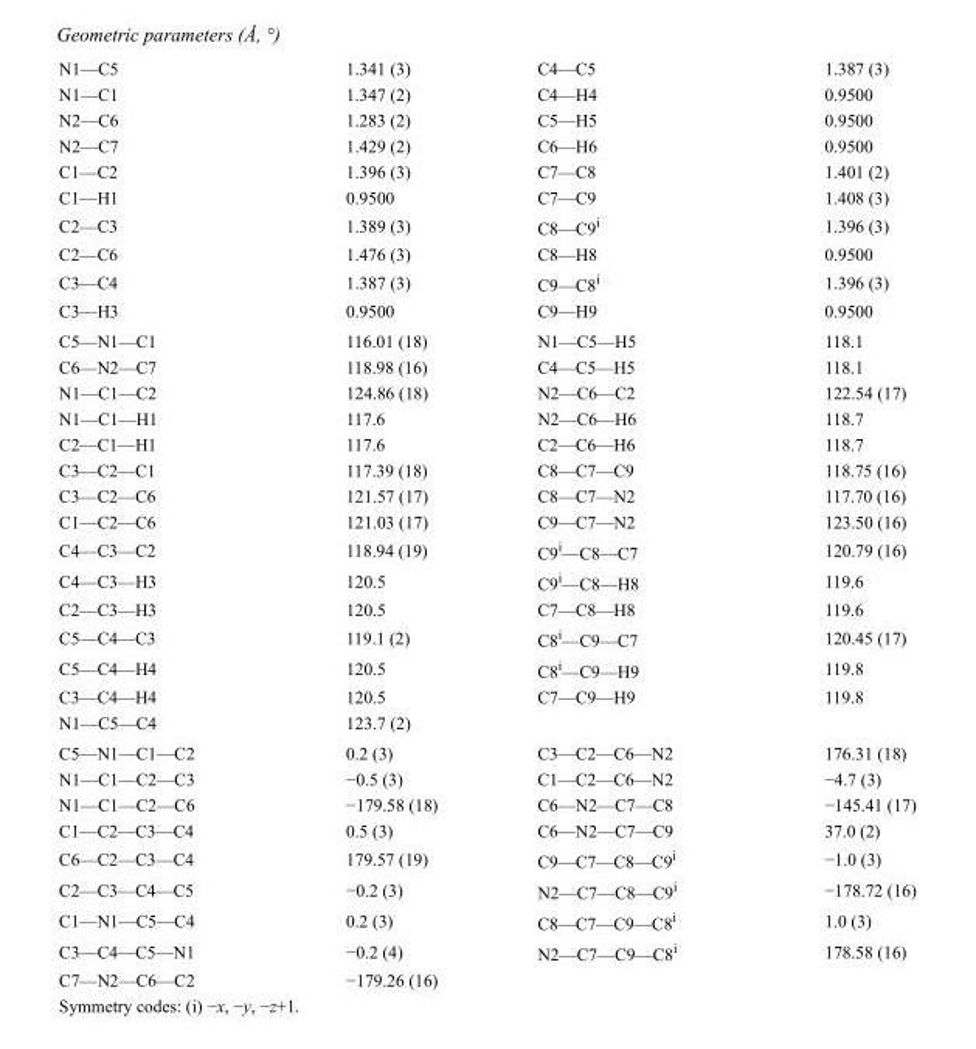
<table><tbody><tr><td>N1—C5</td><td>1.341 (3)</td><td>C4—C5</td><td>1.387 (3)</td></tr><tr><td>N1—C1</td><td>1.347 (2)</td><td>C4—H4</td><td>0.9500</td></tr><tr><td>N2—C6</td><td>1.283 (2)</td><td>C5—H5</td><td>0.9500</td></tr><tr><td>N2—C7</td><td>1.429 (2)</td><td>C6—H6</td><td>0.9500</td></tr><tr><td>C1—C2</td><td>1.396 (3)</td><td>C7—C8</td><td>1.401 (2)</td></tr><tr><td>C1—H1</td><td>0.9500</td><td>C7—C9</td><td>1.408 (3)</td></tr><tr><td>C2—C3</td><td>1.389 (3)</td><td>C8—C9<sup>i</sup></td><td>1.396 (3)</td></tr><tr><td>C2—C6</td><td>1.476 (3)</td><td>C8—H8</td><td>0.9500</td></tr><tr><td>C3—C4</td><td>1.387 (3)</td><td>C9—C8<sup>i</sup></td><td>1.396 (3)</td></tr><tr><td>C3—H3</td><td>0.9500</td><td>C9—H9</td><td>0.9500</td></tr><tr><td>C5—N1—C1</td><td>116.01 (18)</td><td>N1—C5—H5</td><td>118.1</td></tr><tr><td>C6—N2—C7</td><td>118.98 (16)</td><td>C4—C5—H5</td><td>118.1</td></tr><tr><td>N1—C1—C2</td><td>124.86 (18)</td><td>N2—C6—C2</td><td>122.54 (17)</td></tr><tr><td>N1—C1—H1</td><td>117.6</td><td>N2—C6—H6</td><td>118.7</td></tr><tr><td>C2—C1—H1</td><td>117.6</td><td>C2—C6—H6</td><td>118.7</td></tr><tr><td>C3—C2—C1</td><td>117.39 (18)</td><td>C8—C7—C9</td><td>118.75 (16)</td></tr><tr><td>C3—C2—C6</td><td>121.57 (17)</td><td>C8—C7—N2</td><td>117.70 (16)</td></tr><tr><td>C1—C2—C6</td><td>121.03 (17)</td><td>C9—C7—N2</td><td>123.50 (16)</td></tr><tr><td>C4—C3—C2</td><td>118.94 (19)</td><td>C9<sup>i</sup>—C8—C7</td><td>120.79 (16)</td></tr><tr><td>C4—C3—H3</td><td>120.5</td><td>C9<sup>i</sup>—C8—H8</td><td>119.6</td></tr><tr><td>C2—C3—H3</td><td>120.5</td><td>C7—C8—H8</td><td>119.6</td></tr><tr><td>C5—C4—C3</td><td>119.1 (2)</td><td>C8<sup>i</sup>—C9—C7</td><td>120.45 (17)</td></tr><tr><td>C5—C4—H4</td><td>120.5</td><td>C8<sup>i</sup>—C9—H9</td><td>119.8</td></tr><tr><td>C3—C4—H4</td><td>120.5</td><td>C7—C9—H9</td><td>119.8</td></tr><tr><td>N1—C5—C4</td><td>123.7 (2)</td><td></td><td></td></tr><tr><td>C5—N1—C1—C2</td><td>0.2 (3)</td><td>C3—C2—C6—N2</td><td>176.31 (18)</td></tr><tr><td>N1—C1—C2—C3</td><td>−0.5 (3)</td><td>C1—C2—C6—N2</td><td>−4.7 (3)</td></tr><tr><td>N1—C1—C2—C6</td><td>−179.58 (18)</td><td>C6—N2—C7—C8</td><td>−145.41 (17)</td></tr><tr><td>C1—C2—C3—C4</td><td>0.5 (3)</td><td>C6—N2—C7—C9</td><td>37.0 (2)</td></tr><tr><td>C6—C2—C3—C4</td><td>179.57 (19)</td><td>C9—C7—C8—C9<sup>i</sup></td><td>−1.0 (3)</td></tr><tr><td>C2—C3—C4—C5</td><td>−0.2 (3)</td><td>N2—C7—C8—C9<sup>i</sup></td><td>−178.72 (16)</td></tr><tr><td>C1—N1—C5—C4</td><td>0.2 (3)</td><td>C8—C7—C9—C8<sup>i</sup></td><td>1.0 (3)</td></tr><tr><td>C3—C4—C5—N1</td><td>−0.2 (4)</td><td>N2—C7—C9—C8<sup>i</sup></td><td>178.58 (16)</td></tr><tr><td>C7—N2—C6—C2</td><td>−179.26 (16)</td><td></td><td></td></tr></tbody></table>